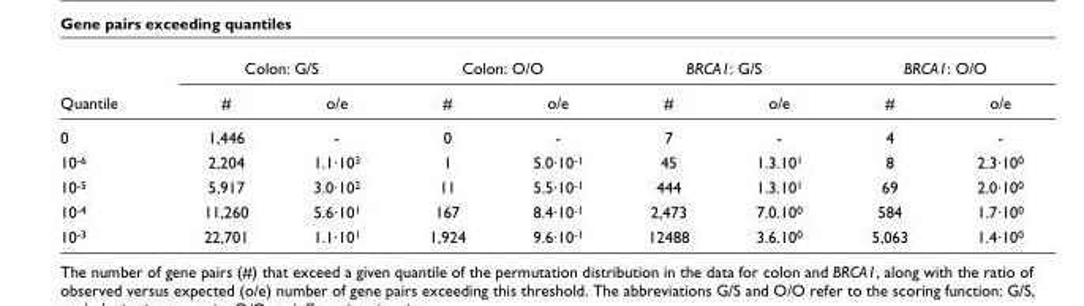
<table><thead><tr><td rowspan="2">Quantile</td><td colspan="2">Colon: G/S</td><td colspan="2">Colon: O/O</td><td colspan="2">BRCA1: G/S</td><td colspan="2">BRCA1: O/O</td></tr><tr><td>#</td><td>o/e</td><td>#</td><td>o/e</td><td>#</td><td>o/e</td><td>#</td><td>o/e</td></tr></thead><tbody><tr><td>0</td><td>1,446</td><td>-</td><td>0</td><td>-</td><td>7</td><td>-</td><td>4</td><td>-</td></tr><tr><td>10-6</td><td>2,204</td><td>1.1·103</td><td>1</td><td>5.0·10-1</td><td>45</td><td>1.3.101</td><td>8</td><td>2.3·100</td></tr><tr><td>10-5</td><td>5,917</td><td>3.0·102</td><td>11</td><td>5.5·10-1</td><td>444</td><td>1.3.101</td><td>69</td><td>2.0·100</td></tr><tr><td>10-4</td><td>11,260</td><td>5.6·101</td><td>167</td><td>8.4·10-1</td><td>2,473</td><td>7.0.100</td><td>584</td><td>1.7·100</td></tr><tr><td>10-3</td><td>22,701</td><td>1.1·101</td><td>1,924</td><td>9.6·10-1</td><td>12488</td><td>3.6.100</td><td>5,063</td><td>1.4·100</td></tr></tbody></table>